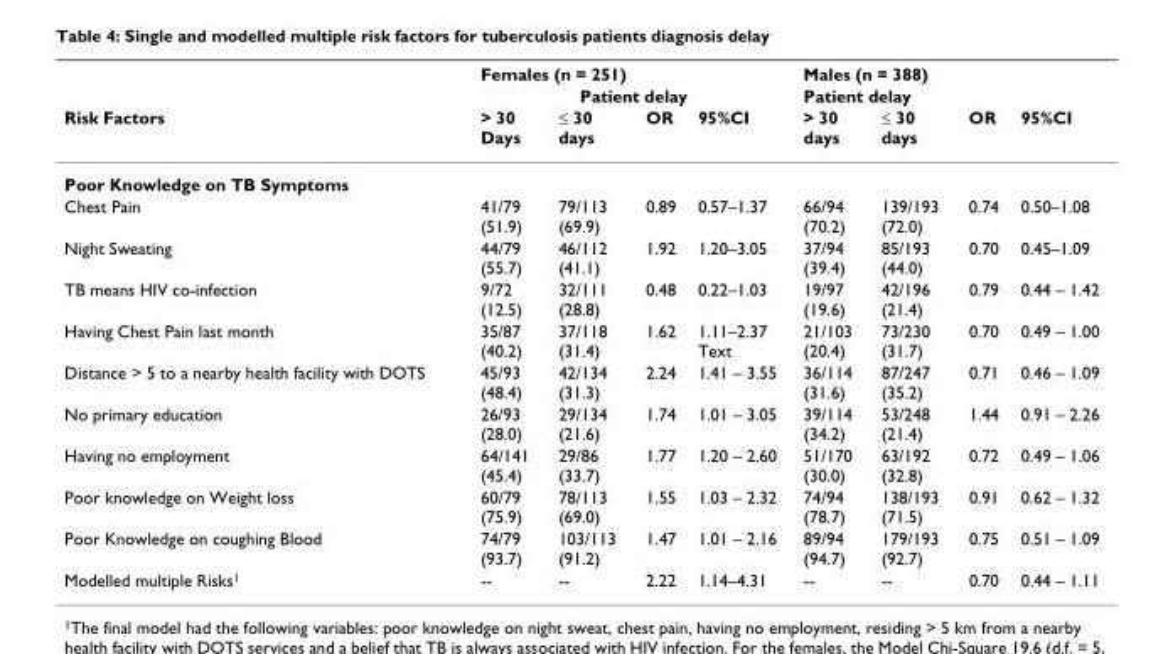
<table><thead><tr><td rowspan="3">Risk Factors</td><td rowspan="2" colspan="4">Females (n = 251) Patient delay</td><td rowspan="2" colspan="4">Males (n = 388) Patient delay</td></tr><tr></tr><tr><td>&gt; 30 Days</td><td>≤ 30 days</td><td>OR</td><td>95%CI</td><td>&gt; 30 days</td><td>≤ 30 days</td><td>OR</td><td>95%CI</td></tr></thead><tbody><tr><td colspan="9">Poor Knowledge on TB Symptoms</td></tr><tr><td>Chest Pain</td><td>41/79 (51.9)</td><td>79/113 (69.9)</td><td>0.89</td><td>0.57–1.37</td><td>66/94 (70.2)</td><td>139/193 (72.0)</td><td>0.74</td><td>0.50–1.08</td></tr><tr><td>Night Sweating</td><td>44/79 (55.7)</td><td>46/112 (41.1)</td><td>1.92</td><td>1.20–3.05</td><td>37/94 (39.4)</td><td>85/193 (44.0)</td><td>0.70</td><td>0.45–1.09</td></tr><tr><td>TB means HIV co-infection</td><td>9/72 (12.5)</td><td>32/111 (28.8)</td><td>0.48</td><td>0.22–1.03</td><td>19/97 (19.6)</td><td>42/196 (21.4)</td><td>0.79</td><td>0.44 – 1.42</td></tr><tr><td>Having Chest Pain last month</td><td>35/87 (40.2)</td><td>37/118 (31.4)</td><td>1.62</td><td>1.11–2.37 Text</td><td>21/103 (20.4)</td><td>73/230 (31.7)</td><td>0.70</td><td>0.49 – 1.00</td></tr><tr><td>Distance &gt; 5 to a nearby health facility with DOTS</td><td>45/93 (48.4)</td><td>42/134 (31.3)</td><td>2.24</td><td>1.41 – 3.55</td><td>36/114 (31.6)</td><td>87/247 (35.2)</td><td>0.71</td><td>0.46 – 1.09</td></tr><tr><td>No primary education</td><td>26/93 (28.0)</td><td>29/134 (21.6)</td><td>1.74</td><td>1.01 – 3.05</td><td>39/114 (34.2)</td><td>53/248 (21.4)</td><td>1.44</td><td>0.91 – 2.26</td></tr><tr><td>Having no employment</td><td>64/141 (45.4)</td><td>29/86 (33.7)</td><td>1.77</td><td>1.20 – 2.60</td><td>51/170 (30.0)</td><td>63/192 (32.8)</td><td>0.72</td><td>0.49 – 1.06</td></tr><tr><td>Poor knowledge on Weight loss</td><td>60/79 (75.9)</td><td>78/113 (69.0)</td><td>1.55</td><td>1.03 – 2.32</td><td>74/94 (78.7)</td><td>138/193 (71.5)</td><td>0.91</td><td>0.62 – 1.32</td></tr><tr><td>Poor Knowledge on coughing Blood</td><td>74/79 (93.7)</td><td>103/113 (91.2)</td><td>1.47</td><td>1.01 – 2.16</td><td>89/94 (94.7)</td><td>179/193 (92.7)</td><td>0.75</td><td>0.51 – 1.09</td></tr><tr><td>Modelled multiple Risks<sup>1</sup></td><td>--</td><td>--</td><td>2.22</td><td>1.14–4.31</td><td>--</td><td>--</td><td>0.70</td><td>0.44 – 1.11</td></tr></tbody></table>